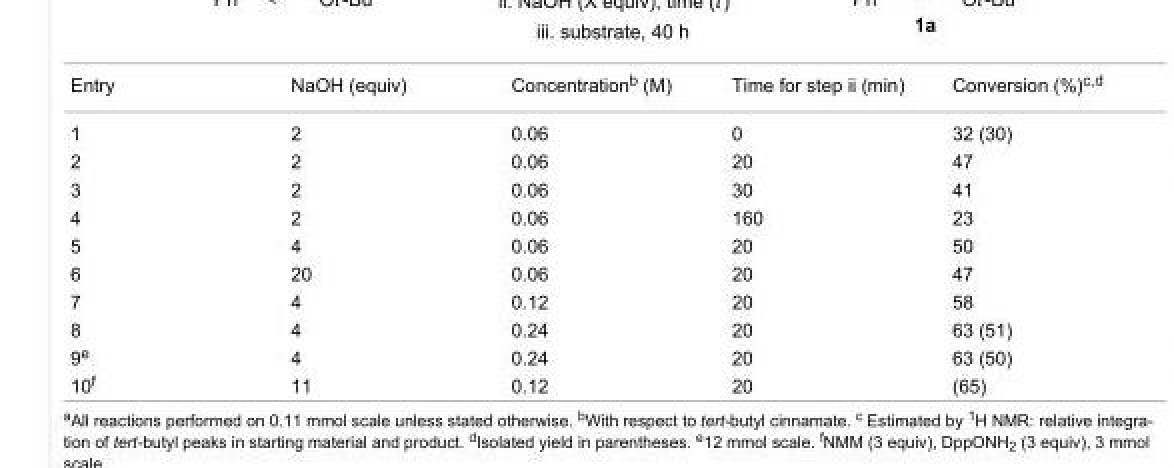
<table><tbody><tr><td>Entry</td><td>NaOH (equiv)</td><td>Concentration<sup>b</sup> (M)</td><td>Time for step ii (min)</td><td>Conversion (%)<sup>c,d</sup></td></tr><tr><td>1</td><td>2</td><td>0.06</td><td>0</td><td>32 (30)</td></tr><tr><td>2</td><td>2</td><td>0.06</td><td>20</td><td>47</td></tr><tr><td>3</td><td>2</td><td>0.06</td><td>30</td><td>41</td></tr><tr><td>4</td><td>2</td><td>0.06</td><td>160</td><td>23</td></tr><tr><td>5</td><td>4</td><td>0.06</td><td>20</td><td>50</td></tr><tr><td>6</td><td>20</td><td>0.06</td><td>20</td><td>47</td></tr><tr><td>7</td><td>4</td><td>0.12</td><td>20</td><td>58</td></tr><tr><td>8</td><td>4</td><td>0.24</td><td>20</td><td>63 (51)</td></tr><tr><td>9<sup>e</sup></td><td>4</td><td>0.24</td><td>20</td><td>63 (50)</td></tr><tr><td>10<sup>f</sup></td><td>11</td><td>0.12</td><td>20</td><td>(65)</td></tr></tbody></table>